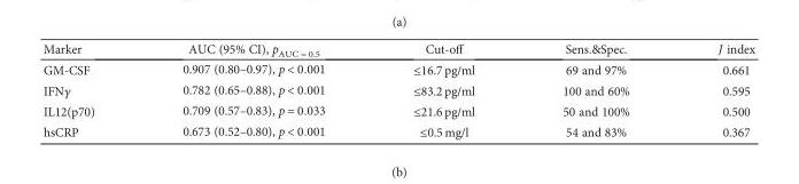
<table><thead><tr><td>Marker</td><td>AUC (95% CI), p<sub>AUC = 0.5</sub></td><td>Cut-off</td><td>Sens.&amp;Spec.</td><td>J index</td></tr></thead><tbody><tr><td>GM-CSF</td><td>0.907 (0.80–0.97), p &lt; 0 001</td><td>≤16.7 pg/ml</td><td>69 and 97%</td><td>0.661</td></tr><tr><td>IFNγ</td><td>0.782 (0.65–0.88), p &lt; 0 001</td><td>≤83.2 pg/ml</td><td>100 and 60%</td><td>0.595</td></tr><tr><td>IL12(p70)</td><td>0.709 (0.57–0.83), p = 0 033</td><td>≤21.6 pg/ml</td><td>50 and 100%</td><td>0.500</td></tr><tr><td>hsCRP</td><td>0.673 (0.52–0.80), p &lt; 0 001</td><td>≤0.5 mg/l</td><td>54 and 83%</td><td>0.367</td></tr></tbody></table>